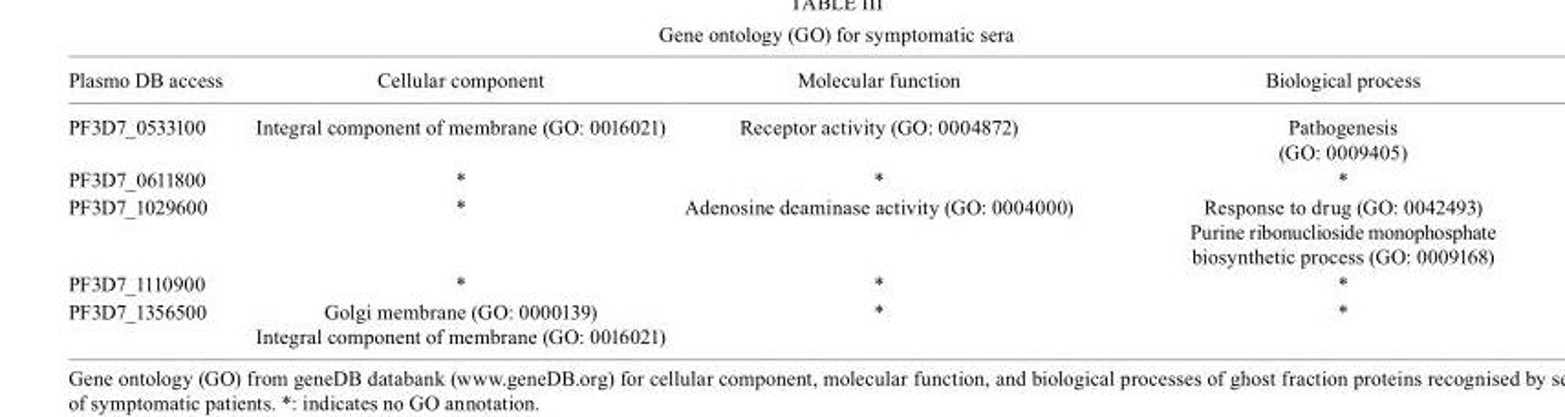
<table><thead><tr><td>Plasmo DB access</td><td>Cellular component</td><td>Molecular function</td><td>Biological process</td></tr></thead><tbody><tr><td>PF3D7_0533100</td><td>Integral component of membrane (GO: 0016021)</td><td>Receptor activity (GO: 0004872)</td><td>Pathogenesis (GO: 0009405)</td></tr><tr><td>PF3D7_0611800</td><td>*</td><td>*</td><td>*</td></tr><tr><td>PF3D7_1029600</td><td>*</td><td>Adenosine deaminase activity (GO: 0004000)</td><td>Response to drug (GO: 0042493) Purine ribonuclioside monophosphate biosynthetic process (GO: 0009168)</td></tr><tr><td>PF3D7_1110900</td><td>*</td><td>*</td><td>*</td></tr><tr><td>PF3D7_1356500</td><td>Golgi membrane (GO: 0000139) Integral component of membrane (GO: 0016021)</td><td>*</td><td>*</td></tr></tbody></table>